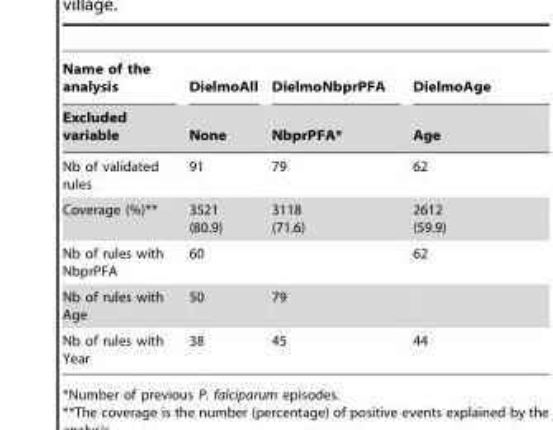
<table><thead><tr><td rowspan="2">Name of the analysis Excluded variable</td><td rowspan="2">DielmoAll None</td><td rowspan="2">DielmoNbprPFA NbprPFA*</td><td rowspan="2">DielmoAge Age</td></tr><tr></tr></thead><tbody><tr><td>Nb of validated rules</td><td>91</td><td>79</td><td>62</td></tr><tr><td>Coverage (%)**</td><td>3521 (80.9)</td><td>3118 (71.6)</td><td>2612 (59.9)</td></tr><tr><td>Nb of rules with NbprPFA</td><td>60</td><td></td><td>62</td></tr><tr><td>Nb of rules with Age</td><td>50</td><td>79</td><td></td></tr><tr><td>Nb of rules with Year</td><td>38</td><td>45</td><td>44</td></tr></tbody></table>